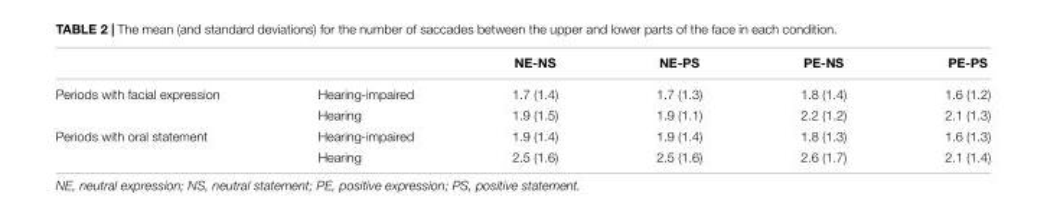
<table><thead><tr><td></td><td></td><td>NE-NS</td><td>NE-PS</td><td>PE-NS</td><td>PE-PS</td></tr></thead><tbody><tr><td rowspan="2">Periods with facial expression</td><td>Hearing-impaired</td><td>1.7 (1.4)</td><td>1.7 (1.3)</td><td>1.8 (1.4)</td><td>1.6 (1.2)</td></tr><tr><td>Hearing</td><td>1.9 (1.5)</td><td>1.9 (1.1)</td><td>2.2 (1.2)</td><td>2.1 (1.3)</td></tr><tr><td rowspan="2">Periods with oral statement</td><td>Hearing-impaired</td><td>1.9 (1.4)</td><td>1.9 (1.4)</td><td>1.8 (1.3)</td><td>1.6 (1.3)</td></tr><tr><td>Hearing</td><td>2.5 (1.6)</td><td>2.5 (1.6)</td><td>2.6 (1.7)</td><td>2.1 (1.4)</td></tr></tbody></table>